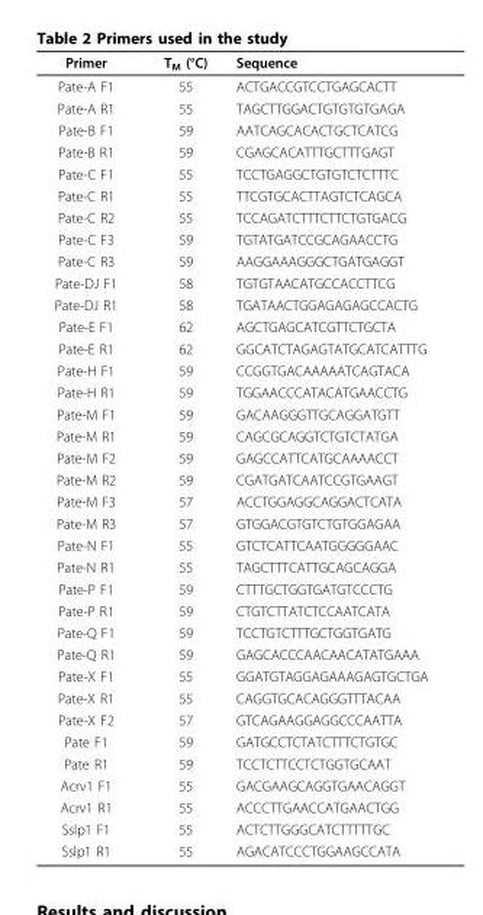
<table><thead><tr><td>Primer</td><td>T<sub>M</sub> (°C)</td><td>Sequence</td></tr></thead><tbody><tr><td>Pate-A F1</td><td>55</td><td>ACTGACCGTCCTGAGCACTT</td></tr><tr><td>Pate-A R1</td><td>55</td><td>TAGCTTGGACTGTGTGTGAGA</td></tr><tr><td>Pate-B F1</td><td>59</td><td>AATCAGCACACTGCTCATCG</td></tr><tr><td>Pate-B R1</td><td>59</td><td>CGAGCACATTTGCTTTGAGT</td></tr><tr><td>Pate-C F1</td><td>55</td><td>TCCTGAGGCTGTGTCTCTTTC</td></tr><tr><td>Pate-C R1</td><td>55</td><td>TTCGTGCACTTAGTCTCAGCA</td></tr><tr><td>Pate-C R2</td><td>55</td><td>TCCAGATCTTTCTTCTGTGACG</td></tr><tr><td>Pate-C F3</td><td>59</td><td>TGTATGATCCGCAGAACCTG</td></tr><tr><td>Pate-C R3</td><td>59</td><td>AAGGAAAGGGCTGATGAGGT</td></tr><tr><td>Pate-DJ F1</td><td>58</td><td>TGTGTAACATGCCACCTTCG</td></tr><tr><td>Pate-DJ R1</td><td>58</td><td>TGATAACTGGAGAGAGCCACTG</td></tr><tr><td>Pate-E F1</td><td>62</td><td>AGCTGAGCATCGTTCTGCTA</td></tr><tr><td>Pate-E R1</td><td>62</td><td>GGCATCTAGAGTATGCATCATTTG</td></tr><tr><td>Pate-H F1</td><td>59</td><td>CCGGTGACAAAAATCAGTACA</td></tr><tr><td>Pate-H R1</td><td>59</td><td>TGGAACCCATACATGAACCTG</td></tr><tr><td>Pate-M F1</td><td>59</td><td>GACAAGGGTTGCAGGATGTT</td></tr><tr><td>Pate-M R1</td><td>59</td><td>CAGCGCAGGTCTGTCTATGA</td></tr><tr><td>Pate-M F2</td><td>59</td><td>GAGCCATTCATGCAAAACCT</td></tr><tr><td>Pate-M R2</td><td>59</td><td>CGATGATCAATCCGTGAAGT</td></tr><tr><td>Pate-M F3</td><td>57</td><td>ACCTGGAGGCAGGACTCATA</td></tr><tr><td>Pate-M R3</td><td>57</td><td>GTGGACGTGTCTGTGGAGAA</td></tr><tr><td>Pate-N F1</td><td>55</td><td>GTCTCATTCAATGGGGGAAC</td></tr><tr><td>Pate-N R1</td><td>55</td><td>TAGCTTTCATTGCAGCAGGA</td></tr><tr><td>Pate-P F1</td><td>59</td><td>CTTTGCTGGTGATGTCCCTG</td></tr><tr><td>Pate-P R1</td><td>59</td><td>CTGTCTTATCTCCAATCATA</td></tr><tr><td>Pate-Q F1</td><td>59</td><td>TCCTGTCTTTGCTGGTGATG</td></tr><tr><td>Pate-Q R1</td><td>59</td><td>GAGCACCCAACAACATATGAAA</td></tr><tr><td>Pate-X F1</td><td>55</td><td>GGATGTAGGAGAAAGAGTGCTGA</td></tr><tr><td>Pate-X R1</td><td>55</td><td>CAGGTGCACAGGGTTTACAA</td></tr><tr><td>Pate-X F2</td><td>57</td><td>GTCAGAAGGAGGCCCAATTA</td></tr><tr><td>Pate F1</td><td>59</td><td>GATGCCTCTATCTTTCTGTGC</td></tr><tr><td>Pate R1</td><td>59</td><td>TCCTCTTCCTCTGGTGCAAT</td></tr><tr><td>Acrv1 F1</td><td>55</td><td>GACGAAGCAGGTGAACAGGT</td></tr><tr><td>Acrv1 R1</td><td>55</td><td>ACCCTTGAACCATGAACTGG</td></tr><tr><td>Sslp1 F1</td><td>55</td><td>ACTCTTGGGCATCTTTTTGC</td></tr><tr><td>Sslp1 R1</td><td>55</td><td>AGACATCCCTGGAAGCCATA</td></tr></tbody></table>